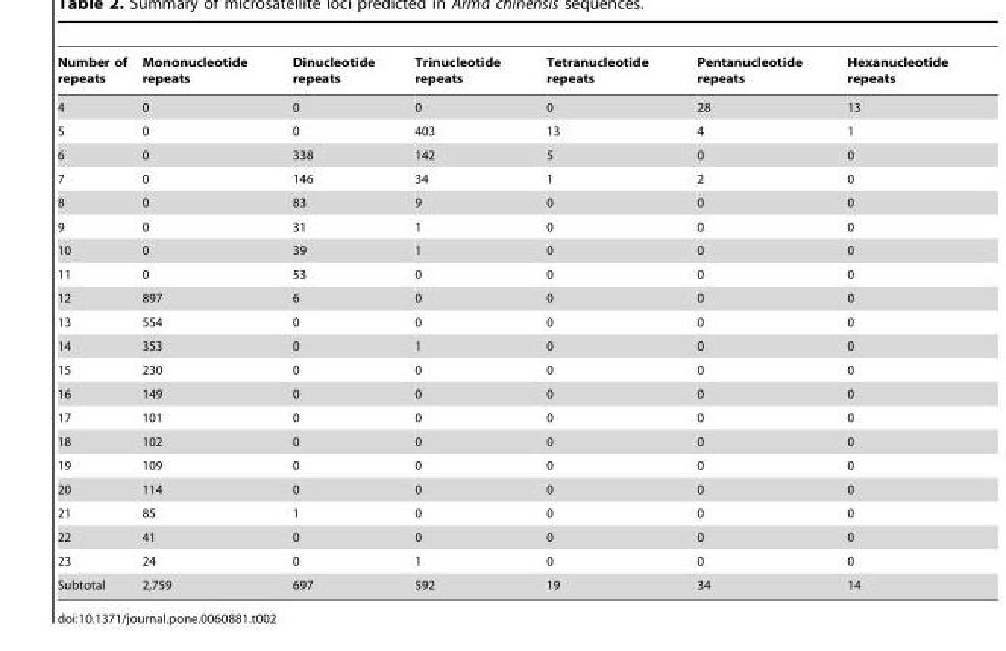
<table><thead><tr><td>Number of repeats</td><td>Mononucleotide repeats</td><td>Dinucleotide repeats</td><td>Trinucleotide repeats</td><td>Tetranucleotide repeats</td><td>Pentanucleotide repeats</td><td>Hexanucleotide repeats</td></tr></thead><tbody><tr><td>4</td><td>0</td><td>0</td><td>0</td><td>0</td><td>28</td><td>13</td></tr><tr><td>5</td><td>0</td><td>0</td><td>403</td><td>13</td><td>4</td><td>1</td></tr><tr><td>6</td><td>0</td><td>338</td><td>142</td><td>5</td><td>0</td><td>0</td></tr><tr><td>7</td><td>0</td><td>146</td><td>34</td><td>1</td><td>2</td><td>0</td></tr><tr><td>8</td><td>0</td><td>83</td><td>9</td><td>0</td><td>0</td><td>0</td></tr><tr><td>9</td><td>0</td><td>31</td><td>1</td><td>0</td><td>0</td><td>0</td></tr><tr><td>10</td><td>0</td><td>39</td><td>1</td><td>0</td><td>0</td><td>0</td></tr><tr><td>11</td><td>0</td><td>53</td><td>0</td><td>0</td><td>0</td><td>0</td></tr><tr><td>12</td><td>897</td><td>6</td><td>0</td><td>0</td><td>0</td><td>0</td></tr><tr><td>13</td><td>554</td><td>0</td><td>0</td><td>0</td><td>0</td><td>0</td></tr><tr><td>14</td><td>353</td><td>0</td><td>1</td><td>0</td><td>0</td><td>0</td></tr><tr><td>15</td><td>230</td><td>0</td><td>0</td><td>0</td><td>0</td><td>0</td></tr><tr><td>16</td><td>149</td><td>0</td><td>0</td><td>0</td><td>0</td><td>0</td></tr><tr><td>17</td><td>101</td><td>0</td><td>0</td><td>0</td><td>0</td><td>0</td></tr><tr><td>18</td><td>102</td><td>0</td><td>0</td><td>0</td><td>0</td><td>0</td></tr><tr><td>19</td><td>109</td><td>0</td><td>0</td><td>0</td><td>0</td><td>0</td></tr><tr><td>20</td><td>114</td><td>0</td><td>0</td><td>0</td><td>0</td><td>0</td></tr><tr><td>21</td><td>85</td><td>1</td><td>0</td><td>0</td><td>0</td><td>0</td></tr><tr><td>22</td><td>41</td><td>0</td><td>0</td><td>0</td><td>0</td><td>0</td></tr><tr><td>23</td><td>24</td><td>0</td><td>1</td><td>0</td><td>0</td><td>0</td></tr><tr><td>Subtotal</td><td>2,759</td><td>697</td><td>592</td><td>19</td><td>34</td><td>14</td></tr></tbody></table>